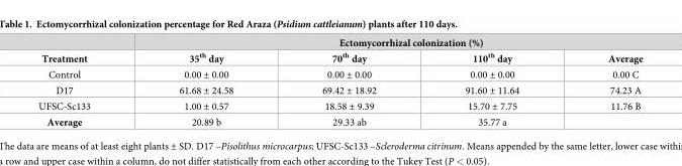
<table><thead><tr><td rowspan="2">Treatment</td><td colspan="4">Ectomycorrhizal colonization (%)</td></tr><tr><td>35<sup>th</sup> day</td><td>70<sup>th</sup> day</td><td>110<sup>th</sup> day</td><td>Average</td></tr></thead><tbody><tr><td>Control</td><td>0.00 ± 0.00</td><td>0.00 ± 0.00</td><td>0.00 ± 0.00</td><td>0.00 C</td></tr><tr><td>D17</td><td>61.68 ± 24.58</td><td>69.42 ± 18.92</td><td>91.60 ± 11.64</td><td>74.23 A</td></tr><tr><td>UFSC-Sc133</td><td>1.00 ± 0.57</td><td>18.58 ± 9.39</td><td>15.70 ± 7.75</td><td>11.76 B</td></tr><tr><td>Average</td><td>20.89 b</td><td>29.33 ab</td><td>35.77 a</td><td></td></tr></tbody></table>